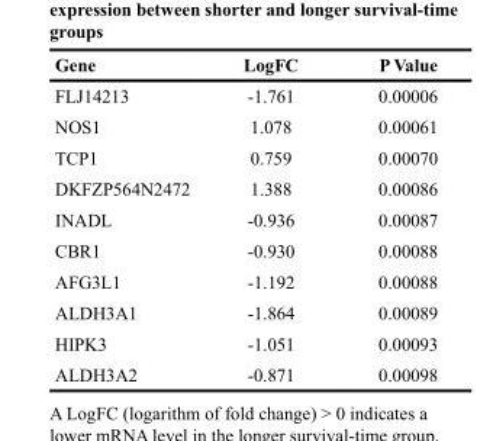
<table><thead><tr><td>Gene</td><td>LogFC</td><td>P Value</td></tr></thead><tbody><tr><td>FLJ14213</td><td>-1.761</td><td>0.00006</td></tr><tr><td>NOS1</td><td>1.078</td><td>0.00061</td></tr><tr><td>TCP1</td><td>0.759</td><td>0.00070</td></tr><tr><td>DKFZP564N2472</td><td>1.388</td><td>0.00086</td></tr><tr><td>INADL</td><td>-0.936</td><td>0.00087</td></tr><tr><td>CBR1</td><td>-0.930</td><td>0.00088</td></tr><tr><td>AFG3L1</td><td>-1.192</td><td>0.00088</td></tr><tr><td>ALDH3A1</td><td>-1.864</td><td>0.00089</td></tr><tr><td>HIPK3</td><td>-1.051</td><td>0.00093</td></tr><tr><td>ALDH3A2</td><td>-0.871</td><td>0.00098</td></tr></tbody></table>